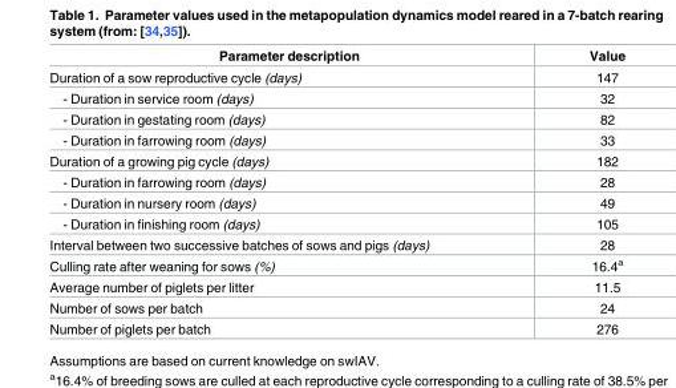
<table><thead><tr><td>Parameter description</td><td>Value</td></tr></thead><tbody><tr><td>Duration of a sow reproductive cycle (days)</td><td>147</td></tr><tr><td>- Duration in service room (days)</td><td>32</td></tr><tr><td>- Duration in gestating room (days)</td><td>82</td></tr><tr><td>- Duration in farrowing room (days)</td><td>33</td></tr><tr><td>Duration of a growing pig cycle (days)</td><td>182</td></tr><tr><td>- Duration in farrowing room (days)</td><td>28</td></tr><tr><td>- Duration in nursery room (days)</td><td>49</td></tr><tr><td>- Duration in finishing room (days)</td><td>105</td></tr><tr><td>Interval between two successive batches of sows and pigs (days)</td><td>28</td></tr><tr><td>Culling rate after weaning for sows (%)</td><td>16.4<sup>a</sup></td></tr><tr><td>Average number of piglets per litter</td><td>11.5</td></tr><tr><td>Number of sows per batch</td><td>24</td></tr><tr><td>Number of piglets per batch</td><td>276</td></tr></tbody></table>